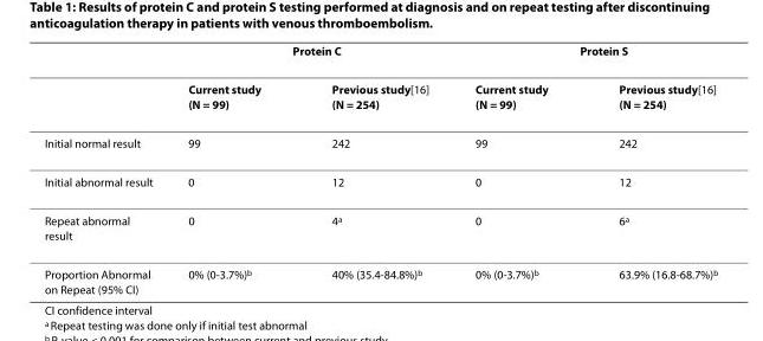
<table><thead><tr><td rowspan="2"></td><td colspan="2">Protein C</td><td colspan="2">Protein S</td></tr><tr><td>Current study (N = 99)</td><td>Previous study[16] (N = 254)</td><td>Current study (N = 99)</td><td>Previous study[16] (N = 254)</td></tr></thead><tbody><tr><td>Initial normal result</td><td>99</td><td>242</td><td>99</td><td>242</td></tr><tr><td>Initial abnormal result</td><td>0</td><td>12</td><td>0</td><td>12</td></tr><tr><td>Repeat abnormal result</td><td>0</td><td>4<sup>a</sup></td><td>0</td><td>6<sup>a</sup></td></tr><tr><td>Proportion Abnormal on Repeat (95% CI)</td><td>0% (0-3.7%)<sup>b</sup></td><td>40% (35.4-84.8%)<sup>b</sup></td><td>0% (0-3.7%)<sup>b</sup></td><td>63.9% (16.8-68.7%)<sup>b</sup></td></tr></tbody></table>